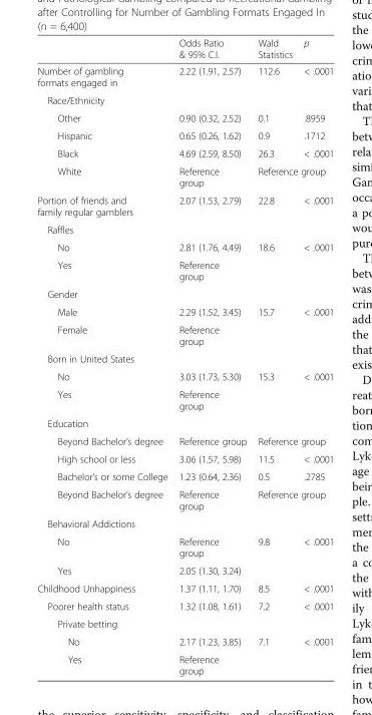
<table><thead><tr><td></td><td>Odds Ratio &amp; 95% C.I.</td><td>Wald Statistics</td><td>p</td></tr></thead><tbody><tr><td>Number of gambling formats engaged in</td><td>2.22 (1.91, 2.57)</td><td>112.6</td><td>&lt; .0001</td></tr><tr><td colspan="4">Race/Ethnicity</td></tr><tr><td>Other</td><td>0.90 (0.32, 2.52)</td><td>0.1</td><td>.8959</td></tr><tr><td>Hispanic</td><td>0.65 (0.26, 1.62)</td><td>0.9</td><td>.1712</td></tr><tr><td>Black</td><td>4.69 (2.59, 8.50)</td><td>26.3</td><td>&lt; .0001</td></tr><tr><td>White</td><td>Reference group</td><td colspan="2">Reference group</td></tr><tr><td>Portion of friends and family regular gamblers</td><td>2.07 (1.53, 2.79)</td><td>22.8</td><td>&lt; .0001</td></tr><tr><td colspan="4">Raffles</td></tr><tr><td>No</td><td>2.81 (1.76, 4.49)</td><td rowspan="2">18.6</td><td rowspan="2">&lt; .0001</td></tr><tr><td>Yes</td><td>Reference group</td></tr><tr><td colspan="4">Gender</td></tr><tr><td>Male</td><td>2.29 (1.52, 3.45)</td><td rowspan="2">15.7</td><td rowspan="2">&lt; .0001</td></tr><tr><td>Female</td><td>Reference group</td></tr><tr><td colspan="4">Born in United States</td></tr><tr><td>No</td><td>3.03 (1.73, 5.30)</td><td rowspan="2">15.3</td><td rowspan="2">&lt; .0001</td></tr><tr><td>Yes</td><td>Reference group</td></tr><tr><td colspan="4">Education</td></tr><tr><td>Beyond Bachelor’s degree</td><td>Reference group</td><td colspan="2">Reference group</td></tr><tr><td>High school or less</td><td>3.06 (1.57, 5.98)</td><td>11.5</td><td>&lt; .0001</td></tr><tr><td>Bachelor’s or some College</td><td>1.23 (0.64, 2.36)</td><td>0.5</td><td>.2785</td></tr><tr><td>Beyond Bachelor’s degree</td><td>Reference group</td><td colspan="2">Reference group</td></tr><tr><td colspan="4">Behavioral Addictions</td></tr><tr><td>No</td><td>Reference group</td><td rowspan="2">9.8</td><td rowspan="2">&lt; .0001</td></tr><tr><td>Yes</td><td>2.05 (1.30, 3.24)</td></tr><tr><td>Childhood Unhappiness</td><td>1.37 (1.11, 1.70)</td><td>8.5</td><td>&lt; .0001</td></tr><tr><td>Poorer health status</td><td>1.32 (1.08, 1.61)</td><td>7.2</td><td>&lt; .0001</td></tr><tr><td colspan="4">Private betting</td></tr><tr><td>No</td><td>2.17 (1.23, 3.85)</td><td rowspan="2">7.1</td><td rowspan="2">&lt; .0001</td></tr><tr><td>Yes</td><td>Reference group</td></tr></tbody></table>